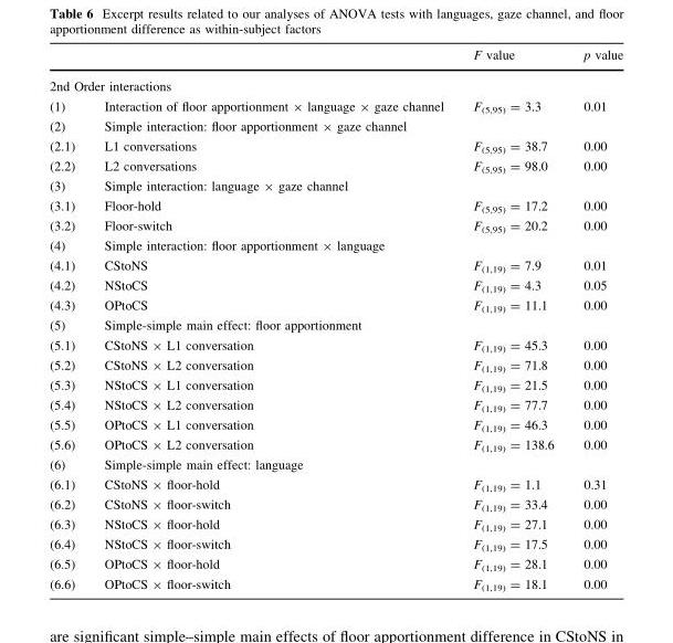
<table><thead><tr><td></td><td></td><td>F value</td><td>p value</td></tr></thead><tbody><tr><td colspan="4">2nd Order interactions</td></tr><tr><td>(1)</td><td>Interaction of floor apportionment × language × gaze channel</td><td>F<sub>(5,95)</sub> = 3.3</td><td>0.01</td></tr><tr><td>(2)</td><td>Simple interaction: floor apportionment × gaze channel</td><td></td><td></td></tr><tr><td>(2.1)</td><td>L1 conversations</td><td>F<sub>(5,95)</sub> = 38.7</td><td>0.00</td></tr><tr><td>(2.2)</td><td>L2 conversations</td><td>F<sub>(5,95)</sub> = 98.0</td><td>0.00</td></tr><tr><td>(3)</td><td>Simple interaction: language × gaze channel</td><td></td><td></td></tr><tr><td>(3.1)</td><td>Floor-hold</td><td>F<sub>(5,95)</sub> = 17.2</td><td>0.00</td></tr><tr><td>(3.2)</td><td>Floor-switch</td><td>F<sub>(5,95)</sub> = 20.2</td><td>0.00</td></tr><tr><td>(4)</td><td>Simple interaction: floor apportionment × language</td><td></td><td></td></tr><tr><td>(4.1)</td><td>CStoNS</td><td>F<sub>(1,19)</sub> = 7.9</td><td>0.01</td></tr><tr><td>(4.2)</td><td>NStoCS</td><td>F<sub>(1,19)</sub> = 4.3</td><td>0.05</td></tr><tr><td>(4.3)</td><td>OPtoCS</td><td>F<sub>(1,19)</sub> = 11.1</td><td>0.00</td></tr><tr><td>(5)</td><td>Simple-simple main effect: floor apportionment</td><td></td><td></td></tr><tr><td>(5.1)</td><td>CStoNS × L1 conversation</td><td>F<sub>(1,19)</sub> = 45.3</td><td>0.00</td></tr><tr><td>(5.2)</td><td>CStoNS × L2 conversation</td><td>F<sub>(1,19)</sub> = 71.8</td><td>0.00</td></tr><tr><td>(5.3)</td><td>NStoCS × L1 conversation</td><td>F<sub>(1,19)</sub> = 21.5</td><td>0.00</td></tr><tr><td>(5.4)</td><td>NStoCS × L2 conversation</td><td>F<sub>(1,19)</sub> = 77.7</td><td>0.00</td></tr><tr><td>(5.5)</td><td>OPtoCS × L1 conversation</td><td>F<sub>(1,19)</sub> = 46.3</td><td>0.00</td></tr><tr><td>(5.6)</td><td>OPtoCS × L2 conversation</td><td>F<sub>(1,19)</sub> = 138.6</td><td>0.00</td></tr><tr><td>(6)</td><td>Simple-simple main effect: language</td><td></td><td></td></tr><tr><td>(6.1)</td><td>CStoNS × floor-hold</td><td>F<sub>(1,19)</sub> = 1.1</td><td>0.31</td></tr><tr><td>(6.2)</td><td>CStoNS × floor-switch</td><td>F<sub>(1,19)</sub> = 33.4</td><td>0.00</td></tr><tr><td>(6.3)</td><td>NStoCS × floor-hold</td><td>F<sub>(1,19)</sub> = 27.1</td><td>0.00</td></tr><tr><td>(6.4)</td><td>NStoCS × floor-switch</td><td>F<sub>(1,19)</sub> = 17.5</td><td>0.00</td></tr><tr><td>(6.5)</td><td>OPtoCS × floor-hold</td><td>F<sub>(1,19)</sub> = 28.1</td><td>0.00</td></tr><tr><td>(6.6)</td><td>OPtoCS × floor-switch</td><td>F<sub>(1,19)</sub> = 18.1</td><td>0.00</td></tr></tbody></table>